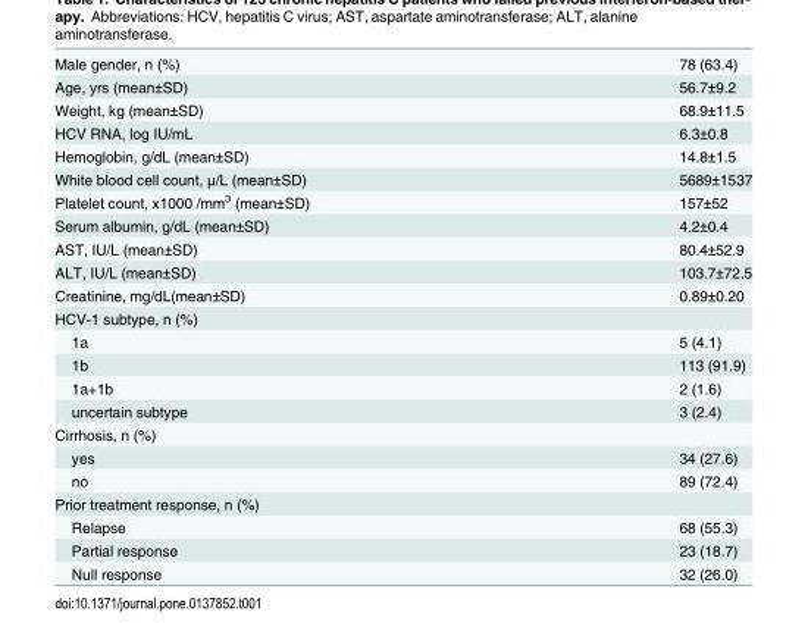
<table><tbody><tr><td>Male gender, n (%)</td><td>78 (63.4)</td></tr><tr><td>Age, yrs (mean±SD)</td><td>56.7±9.2</td></tr><tr><td>Weight, kg (mean±SD)</td><td>68.9±11.5</td></tr><tr><td>HCV RNA, log IU/mL</td><td>6.3±0.8</td></tr><tr><td>Hemoglobin, g/dL (mean±SD)</td><td>14.8±1.5</td></tr><tr><td>White blood cell count, μ/L (mean±SD)</td><td>5689±1537</td></tr><tr><td>Platelet count, x1000 /mm<sup>3</sup> (mean±SD)</td><td>157±52</td></tr><tr><td>Serum albumin, g/dL (mean±SD)</td><td>4.2±0.4</td></tr><tr><td>AST, IU/L (mean±SD)</td><td>80.4±52.9</td></tr><tr><td>ALT, IU/L (mean±SD)</td><td>103.7±72.5</td></tr><tr><td>Creatinine, mg/dL(mean±SD)</td><td>0.89±0.20</td></tr><tr><td colspan="2">HCV-1 subtype, n (%)</td></tr><tr><td>1a</td><td>5 (4.1)</td></tr><tr><td>1b</td><td>113 (91.9)</td></tr><tr><td>1a+1b</td><td>2 (1.6)</td></tr><tr><td>uncertain subtype</td><td>3 (2.4)</td></tr><tr><td colspan="2">Cirrhosis, n (%)</td></tr><tr><td>yes</td><td>34 (27.6)</td></tr><tr><td>no</td><td>89 (72.4)</td></tr><tr><td colspan="2">Prior treatment response, n (%)</td></tr><tr><td>Relapse</td><td>68 (55.3)</td></tr><tr><td>Partial response</td><td>23 (18.7)</td></tr><tr><td>Null response</td><td>32 (26.0)</td></tr></tbody></table>